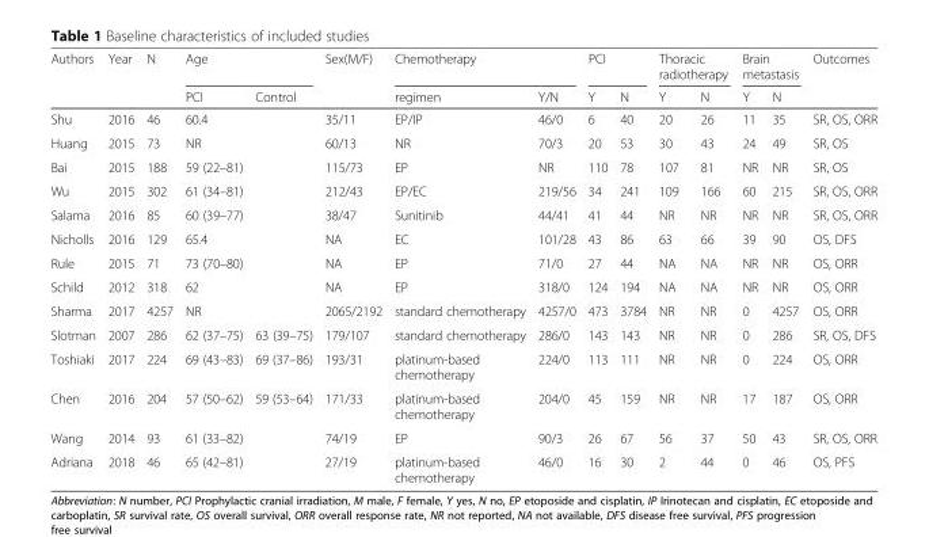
<table><thead><tr><td rowspan="2">Authors</td><td rowspan="2">Year</td><td rowspan="2">N</td><td colspan="2">Age</td><td rowspan="2">Sex(M/F)</td><td colspan="2">Chemotherapy</td><td colspan="2">PCI</td><td colspan="2">Thoracic radiotherapy</td><td colspan="2">Brain metastasis</td><td rowspan="2">Outcomes</td></tr><tr><td>PCI</td><td>Control</td><td>regimen</td><td>Y/N</td><td>Y</td><td>N</td><td>Y</td><td>N</td><td>Y</td><td>N</td></tr></thead><tbody><tr><td>Shu</td><td>2016</td><td>46</td><td colspan="2">60.4</td><td>35/11</td><td>EP/IP</td><td>46/0</td><td>6</td><td>40</td><td>20</td><td>26</td><td>11</td><td>35</td><td>SR, OS, ORR</td></tr><tr><td>Huang</td><td>2015</td><td>73</td><td colspan="2">NR</td><td>60/13</td><td>NR</td><td>70/3</td><td>20</td><td>53</td><td>30</td><td>43</td><td>24</td><td>49</td><td>SR, OS</td></tr><tr><td>Bai</td><td>2015</td><td>188</td><td colspan="2">59 (22–81)</td><td>115/73</td><td>EP</td><td>NR</td><td>110</td><td>78</td><td>107</td><td>81</td><td>NR</td><td>NR</td><td>SR, OS</td></tr><tr><td>Wu</td><td>2015</td><td>302</td><td colspan="2">61 (34–81)</td><td>212/43</td><td>EP/EC</td><td>219/56</td><td>34</td><td>241</td><td>109</td><td>166</td><td>60</td><td>215</td><td>SR, OS, ORR</td></tr><tr><td>Salama</td><td>2016</td><td>85</td><td colspan="2">60 (39–77)</td><td>38/47</td><td>Sunitinib</td><td>44/41</td><td>41</td><td>44</td><td>NR</td><td>NR</td><td>NR</td><td>NR</td><td>SR, OS, ORR</td></tr><tr><td>Nicholls</td><td>2016</td><td>129</td><td colspan="2">65.4</td><td>NA</td><td>EC</td><td>101/28</td><td>43</td><td>86</td><td>63</td><td>66</td><td>39</td><td>90</td><td>OS, DFS</td></tr><tr><td>Rule</td><td>2015</td><td>71</td><td colspan="2">73 (70–80)</td><td>NA</td><td>EP</td><td>71/0</td><td>27</td><td>44</td><td>NA</td><td>NA</td><td>NR</td><td>NR</td><td>OS, ORR</td></tr><tr><td>Schild</td><td>2012</td><td>318</td><td colspan="2">62</td><td>NA</td><td>EP</td><td>318/0</td><td>124</td><td>194</td><td>NA</td><td>NA</td><td>NR</td><td>NR</td><td>OS, ORR</td></tr><tr><td>Sharma</td><td>2017</td><td>4257</td><td colspan="2">NR</td><td>2065/2192</td><td>standard chemotherapy</td><td>4257/0</td><td>473</td><td>3784</td><td>NR</td><td>NR</td><td>0</td><td>4257</td><td>OS, ORR</td></tr><tr><td>Slotman</td><td>2007</td><td>286</td><td>62 (37–75)</td><td>63 (39–75)</td><td>179/107</td><td>standard chemotherapy</td><td>286/0</td><td>143</td><td>143</td><td>NR</td><td>NR</td><td>0</td><td>286</td><td>SR, OS, DFS</td></tr><tr><td>Toshiaki</td><td>2017</td><td>224</td><td>69 (43–83)</td><td>69 (37–86)</td><td>193/31</td><td>platinum-based chemotherapy</td><td>224/0</td><td>113</td><td>111</td><td>NR</td><td>NR</td><td>0</td><td>224</td><td>OS, ORR</td></tr><tr><td>Chen</td><td>2016</td><td>204</td><td>57 (50–62)</td><td>59 (53–64)</td><td>171/33</td><td>platinum-based chemotherapy</td><td>204/0</td><td>45</td><td>159</td><td>NR</td><td>NR</td><td>17</td><td>187</td><td>OS, ORR</td></tr><tr><td>Wang</td><td>2014</td><td>93</td><td colspan="2">61 (33–82)</td><td>74/19</td><td>EP</td><td>90/3</td><td>26</td><td>67</td><td>56</td><td>37</td><td>50</td><td>43</td><td>SR, OS, ORR</td></tr><tr><td>Adriana</td><td>2018</td><td>46</td><td colspan="2">65 (42–81)</td><td>27/19</td><td>platinum-based chemotherapy</td><td>46/0</td><td>16</td><td>30</td><td>2</td><td>44</td><td>0</td><td>46</td><td>OS, PFS</td></tr></tbody></table>